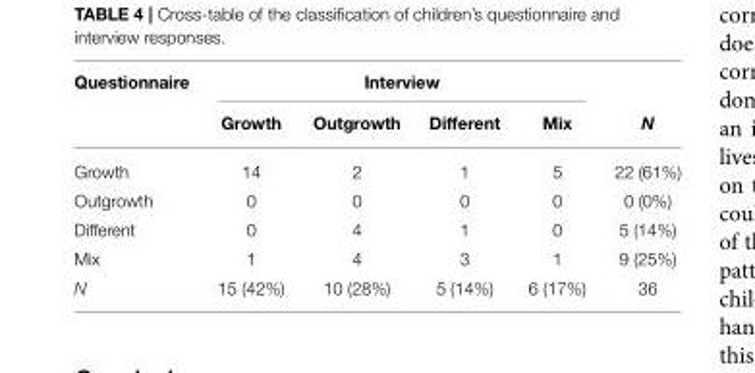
<table><thead><tr><td rowspan="2">Questionnaire</td><td colspan="4">Interview</td><td rowspan="2">N</td></tr><tr><td>Growth</td><td>Outgrowth</td><td>Different</td><td>Mix</td></tr></thead><tbody><tr><td>Growth</td><td>14</td><td>2</td><td>1</td><td>5</td><td>22 (61%)</td></tr><tr><td>Outgrowth</td><td>0</td><td>0</td><td>0</td><td>0</td><td>0 (0%)</td></tr><tr><td>Different</td><td>0</td><td>4</td><td>1</td><td>0</td><td>5 (14%)</td></tr><tr><td>Mix</td><td>1</td><td>4</td><td>3</td><td>1</td><td>9 (25%)</td></tr><tr><td>N</td><td>15 (42%)</td><td>10 (28%)</td><td>5 (14%)</td><td>6 (17%)</td><td>36</td></tr></tbody></table>